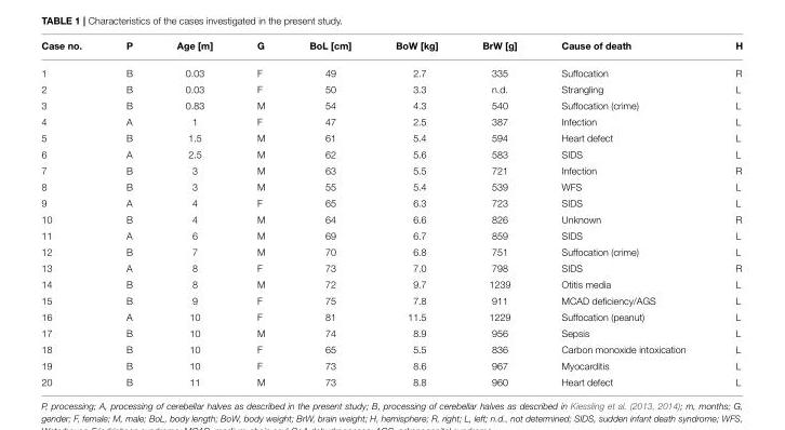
<table><thead><tr><td>Case no.</td><td>P</td><td>Age [m]</td><td>G</td><td>BoL [cm]</td><td>BoW [kg]</td><td>BrW [g]</td><td>Cause of death</td><td>H</td></tr></thead><tbody><tr><td>1</td><td>B</td><td>0.03</td><td>F</td><td>49</td><td>2.7</td><td>335</td><td>Suffocation</td><td>R</td></tr><tr><td>2</td><td>B</td><td>0.03</td><td>F</td><td>50</td><td>3.3</td><td>n.d.</td><td>Strangling</td><td>L</td></tr><tr><td>3</td><td>B</td><td>0.83</td><td>M</td><td>54</td><td>4.3</td><td>540</td><td>Suffocation (crime)</td><td>L</td></tr><tr><td>4</td><td>A</td><td>1</td><td>F</td><td>47</td><td>2.5</td><td>387</td><td>Infection</td><td>L</td></tr><tr><td>5</td><td>B</td><td>1.5</td><td>M</td><td>61</td><td>5.4</td><td>594</td><td>Heart defect</td><td>L</td></tr><tr><td>6</td><td>A</td><td>2.5</td><td>M</td><td>62</td><td>5.6</td><td>583</td><td>SIDS</td><td>L</td></tr><tr><td>7</td><td>B</td><td>3</td><td>M</td><td>63</td><td>5.5</td><td>721</td><td>Infection</td><td>R</td></tr><tr><td>8</td><td>B</td><td>3</td><td>M</td><td>55</td><td>5.4</td><td>539</td><td>WFS</td><td>L</td></tr><tr><td>9</td><td>A</td><td>4</td><td>F</td><td>65</td><td>6.3</td><td>723</td><td>SIDS</td><td>L</td></tr><tr><td>10</td><td>B</td><td>4</td><td>M</td><td>64</td><td>6.6</td><td>826</td><td>Unknown</td><td>R</td></tr><tr><td>11</td><td>A</td><td>6</td><td>M</td><td>69</td><td>6.7</td><td>859</td><td>SIDS</td><td>L</td></tr><tr><td>12</td><td>B</td><td>7</td><td>M</td><td>70</td><td>6.8</td><td>751</td><td>Suffocation (crime)</td><td>L</td></tr><tr><td>13</td><td>A</td><td>8</td><td>F</td><td>73</td><td>7.0</td><td>798</td><td>SIDS</td><td>R</td></tr><tr><td>14</td><td>B</td><td>8</td><td>M</td><td>72</td><td>9.7</td><td>1239</td><td>Otitis media</td><td>L</td></tr><tr><td>15</td><td>B</td><td>9</td><td>F</td><td>75</td><td>7.8</td><td>911</td><td>MCAD deficiency/AGS</td><td>L</td></tr><tr><td>16</td><td>A</td><td>10</td><td>F</td><td>81</td><td>11.5</td><td>1229</td><td>Suffocation (peanut)</td><td>L</td></tr><tr><td>17</td><td>B</td><td>10</td><td>M</td><td>74</td><td>8.9</td><td>956</td><td>Sepsis</td><td>L</td></tr><tr><td>18</td><td>B</td><td>10</td><td>F</td><td>65</td><td>5.5</td><td>836</td><td>Carbon monoxide intoxication</td><td>L</td></tr><tr><td>19</td><td>B</td><td>10</td><td>F</td><td>73</td><td>8.6</td><td>967</td><td>Myocarditis</td><td>L</td></tr><tr><td>20</td><td>B</td><td>11</td><td>M</td><td>73</td><td>8.8</td><td>960</td><td>Heart defect</td><td>L</td></tr></tbody></table>